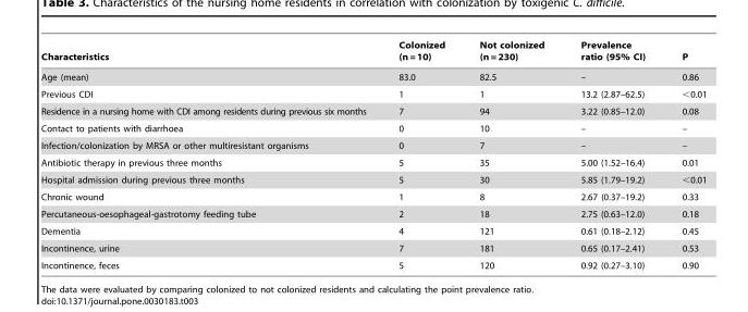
<table><thead><tr><td>Characteristics</td><td>Colonized (n = 10)</td><td>Not colonized (n = 230)</td><td>Prevalence ratio (95% CI)</td><td>P</td></tr></thead><tbody><tr><td>Age (mean)</td><td>83.0</td><td>82.5</td><td>–</td><td>0.86</td></tr><tr><td>Previous CDI</td><td>1</td><td>1</td><td>13.2 (2.87–62.5)</td><td>&lt;0.01</td></tr><tr><td>Residence in a nursing home with CDI among residents during previous six months</td><td>7</td><td>94</td><td>3.22 (0.85–12.0)</td><td>0.08</td></tr><tr><td>Contact to patients with diarrhoea</td><td>0</td><td>10</td><td>–</td><td>–</td></tr><tr><td>Infection/colonization by MRSA or other multiresistant organisms</td><td>0</td><td>7</td><td>–</td><td>–</td></tr><tr><td>Antibiotic therapy in previous three months</td><td>5</td><td>35</td><td>5.00 (1.52–16.4)</td><td>0.01</td></tr><tr><td>Hospital admission during previous three months</td><td>5</td><td>30</td><td>5.85 (1.79–19.2)</td><td>&lt;0.01</td></tr><tr><td>Chronic wound</td><td>1</td><td>8</td><td>2.67 (0.37–19.2)</td><td>0.33</td></tr><tr><td>Percutaneous-oesophageal-gastrotomy feeding tube</td><td>2</td><td>18</td><td>2.75 (0.63–12.0)</td><td>0.18</td></tr><tr><td>Dementia</td><td>4</td><td>121</td><td>0.61 (0.18–2.12)</td><td>0.45</td></tr><tr><td>Incontinence, urine</td><td>7</td><td>181</td><td>0.65 (0.17–2.41)</td><td>0.53</td></tr><tr><td>Incontinence, feces</td><td>5</td><td>120</td><td>0.92 (0.27–3.10)</td><td>0.90</td></tr></tbody></table>